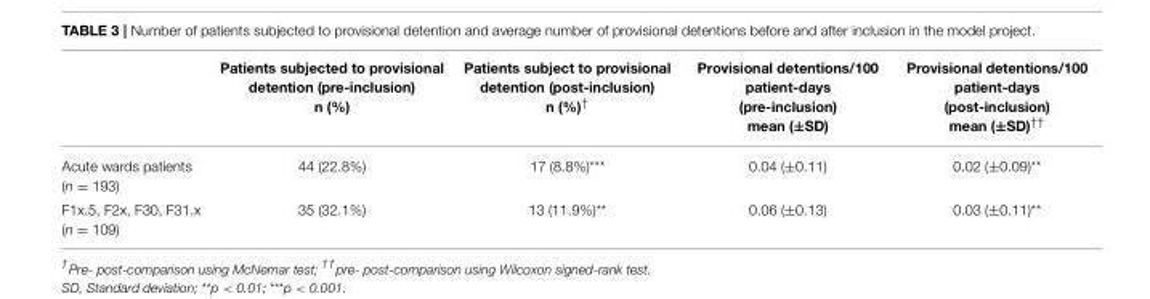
<table><thead><tr><td></td><td>Patients subjected to provisional detention (pre-inclusion) n (%)</td><td>Patients subject to provisional detention (post-inclusion) n (%)<sup>†</sup></td><td>Provisional detentions/100 patient-days (pre-inclusion) mean (±SD)</td><td>Provisional detentions/100 patient-days (post-inclusion) mean (±SD)<sup>††</sup></td></tr></thead><tbody><tr><td>Acute wards patients (n = 193)</td><td>44 (22.8%)</td><td>17 (8.8%)***</td><td>0.04 (±0.11)</td><td>0.02 (±0.09)**</td></tr><tr><td>F1x.5, F2x, F30, F31.x (n = 109)</td><td>35 (32.1%)</td><td>13 (11.9%)**</td><td>0.06 (±0.13)</td><td>0.03 (±0.11)**</td></tr></tbody></table>